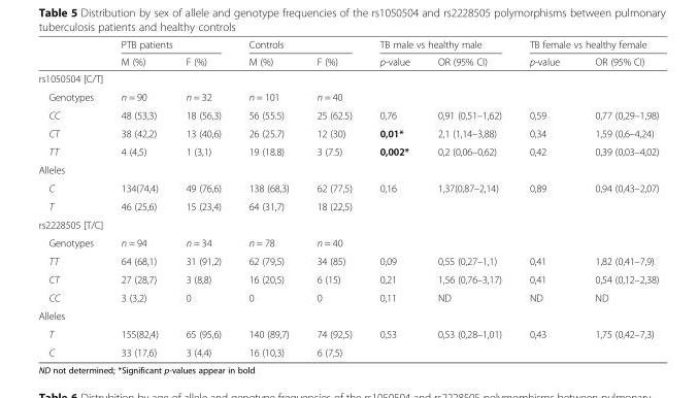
<table><thead><tr><td rowspan="2"></td><td colspan="2">PTB patients</td><td colspan="2">Controls</td><td colspan="2">TB male vs healthy male</td><td colspan="2">TB female vs healthy female</td></tr><tr><td>M (%)</td><td>F (%)</td><td>M (%)</td><td>F (%)</td><td>p-value</td><td>OR (95% CI)</td><td>p-value</td><td>OR (95% CI)</td></tr></thead><tbody><tr><td colspan="9">rs1050504 [C/T]</td></tr><tr><td>Genotypes</td><td>n = 90</td><td>n = 32</td><td>n = 101</td><td>n = 40</td><td></td><td></td><td></td><td></td></tr><tr><td>CC</td><td>48 (53,3)</td><td>18 (56,3)</td><td>56 (55.5)</td><td>25 (62.5)</td><td>0,76</td><td>0,91 (0,51–1,62)</td><td>0,59</td><td>0,77 (0,29–1,98)</td></tr><tr><td>CT</td><td>38 (42,2)</td><td>13 (40,6)</td><td>26 (25.7)</td><td>12 (30)</td><td>0,01*</td><td>2,1 (1,14–3,88)</td><td>0,34</td><td>1,59 (0,6–4,24)</td></tr><tr><td>TT</td><td>4 (4,5)</td><td>1 (3,1)</td><td>19 (18.8)</td><td>3 (7.5)</td><td>0,002*</td><td>0,2 (0,06–0,62)</td><td>0,42</td><td>0,39 (0,03–4,02)</td></tr><tr><td colspan="9">Alleles</td></tr><tr><td>C</td><td>134(74,4)</td><td>49 (76,6)</td><td>138 (68,3)</td><td>62 (77,5)</td><td rowspan="2">0,16</td><td rowspan="2">1,37(0,87–2,14)</td><td rowspan="2">0,89</td><td rowspan="2">0,94 (0,43–2,07)</td></tr><tr><td>T</td><td>46 (25,6)</td><td>15 (23,4)</td><td>64 (31,7)</td><td>18 (22,5)</td></tr><tr><td colspan="9">rs2228505 [T/C]</td></tr><tr><td>Genotypes</td><td>n = 94</td><td>n = 34</td><td>n = 78</td><td>n = 40</td><td></td><td></td><td></td><td></td></tr><tr><td>TT</td><td>64 (68,1)</td><td>31 (91,2)</td><td>62 (79,5)</td><td>34 (85)</td><td>0,09</td><td>0,55 (0,27–1,1)</td><td>0,41</td><td>1,82 (0,41–7,9)</td></tr><tr><td>CT</td><td>27 (28,7)</td><td>3 (8,8)</td><td>16 (20,5)</td><td>6 (15)</td><td>0,21</td><td>1,56 (0,76–3,17)</td><td>0,41</td><td>0,54 (0,12–2,38)</td></tr><tr><td>CC</td><td>3 (3,2)</td><td>0</td><td>0</td><td>0</td><td>0,11</td><td>ND</td><td>ND</td><td>ND</td></tr><tr><td colspan="9">Alleles</td></tr><tr><td>T</td><td>155(82,4)</td><td>65 (95,6)</td><td>140 (89,7)</td><td>74 (92,5)</td><td>0,53</td><td rowspan="2">0,53 (0,28–1,01)</td><td rowspan="2">0,43</td><td rowspan="2">1,75 (0,42–7,3)</td></tr><tr><td>C</td><td>33 (17,6)</td><td>3 (4,4)</td><td>16 (10,3)</td><td>6 (7,5)</td><td></td></tr></tbody></table>